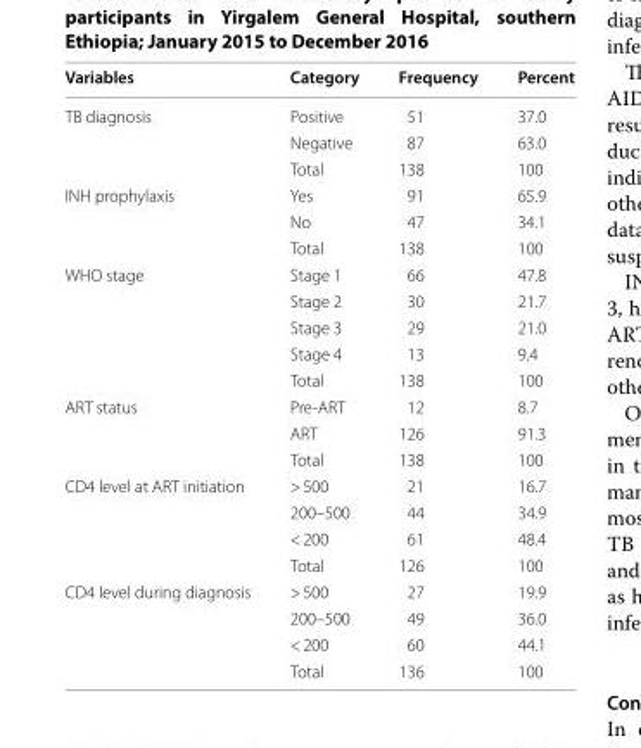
<table><thead><tr><td>Variables</td><td>Category</td><td>Frequency</td><td>Percent</td></tr></thead><tbody><tr><td rowspan="3">TB diagnosis</td><td>Positive</td><td>51</td><td>37.0</td></tr><tr><td>Negative</td><td>87</td><td>63.0</td></tr><tr><td>Total</td><td>138</td><td>100</td></tr><tr><td rowspan="3">INH prophylaxis</td><td>Yes</td><td>91</td><td>65.9</td></tr><tr><td>No</td><td>47</td><td>34.1</td></tr><tr><td>Total</td><td>138</td><td>100</td></tr><tr><td rowspan="5">WHO stage</td><td>Stage 1</td><td>66</td><td>47.8</td></tr><tr><td>Stage 2</td><td>30</td><td>21.7</td></tr><tr><td>Stage 3</td><td>29</td><td>21.0</td></tr><tr><td>Stage 4</td><td>13</td><td>9.4</td></tr><tr><td>Total</td><td>138</td><td>100</td></tr><tr><td rowspan="3">ART status</td><td>Pre-ART</td><td>12</td><td>8.7</td></tr><tr><td>ART</td><td>126</td><td>91.3</td></tr><tr><td>Total</td><td>138</td><td>100</td></tr><tr><td rowspan="4">CD4 level at ART initiation</td><td>&gt; 500</td><td>21</td><td>16.7</td></tr><tr><td>200–500</td><td>44</td><td>34.9</td></tr><tr><td>&lt; 200</td><td>61</td><td>48.4</td></tr><tr><td>Total</td><td>126</td><td>100</td></tr><tr><td rowspan="4">CD4 level during diagnosis</td><td>&gt; 500</td><td>27</td><td>19.9</td></tr><tr><td>200–500</td><td>49</td><td>36.0</td></tr><tr><td>&lt; 200</td><td>60</td><td>44.1</td></tr><tr><td>Total</td><td>136</td><td>100</td></tr></tbody></table>